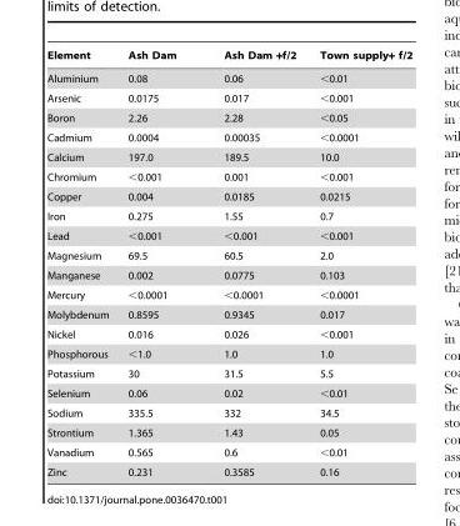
<table><thead><tr><td>Element</td><td>Ash Dam</td><td>Ash Dam +f/2</td><td>Town supply+ f/2</td></tr></thead><tbody><tr><td>Aluminium</td><td>0.08</td><td>0.06</td><td>&lt;0.01</td></tr><tr><td>Arsenic</td><td>0.0175</td><td>0.017</td><td>&lt;0.001</td></tr><tr><td>Boron</td><td>2.26</td><td>2.28</td><td>&lt;0.05</td></tr><tr><td>Cadmium</td><td>0.0004</td><td>0.00035</td><td>&lt;0.0001</td></tr><tr><td>Calcium</td><td>197.0</td><td>189.5</td><td>10.0</td></tr><tr><td>Chromium</td><td>&lt;0.001</td><td>0.001</td><td>&lt;0.001</td></tr><tr><td>Copper</td><td>0.004</td><td>0.0185</td><td>0.0215</td></tr><tr><td>Iron</td><td>0.275</td><td>1.55</td><td>0.7</td></tr><tr><td>Lead</td><td>&lt;0.001</td><td>&lt;0.001</td><td>&lt;0.001</td></tr><tr><td>Magnesium</td><td>69.5</td><td>60.5</td><td>2.0</td></tr><tr><td>Manganese</td><td>0.002</td><td>0.0775</td><td>0.103</td></tr><tr><td>Mercury</td><td>&lt;0.0001</td><td>&lt;0.0001</td><td>&lt;0.0001</td></tr><tr><td>Molybdenum</td><td>0.8595</td><td>0.9345</td><td>0.017</td></tr><tr><td>Nickel</td><td>0.016</td><td>0.026</td><td>&lt;0.001</td></tr><tr><td>Phosphorous</td><td>&lt;1.0</td><td>1.0</td><td>1.0</td></tr><tr><td>Potassium</td><td>30</td><td>31.5</td><td>5.5</td></tr><tr><td>Selenium</td><td>0.06</td><td>0.02</td><td>&lt;0.01</td></tr><tr><td>Sodium</td><td>335.5</td><td>332</td><td>34.5</td></tr><tr><td>Strontium</td><td>1.365</td><td>1.43</td><td>0.05</td></tr><tr><td>Vanadium</td><td>0.565</td><td>0.6</td><td>&lt;0.01</td></tr><tr><td>Zinc</td><td>0.231</td><td>0.3585</td><td>0.16</td></tr></tbody></table>